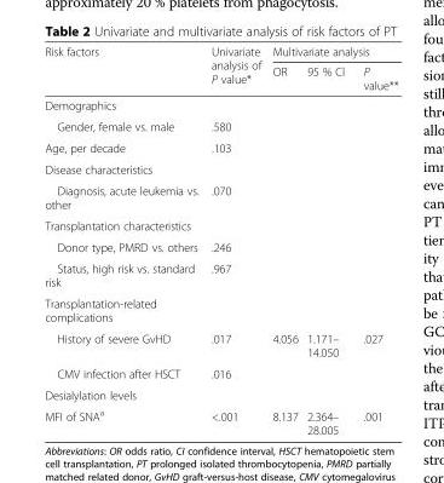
<table><thead><tr><td rowspan="2">Risk factors</td><td rowspan="2">Univariate analysis of P value*</td><td colspan="3">Multivariate analysis</td></tr><tr><td>OR</td><td>95 % Cl</td><td>P value**</td></tr></thead><tbody><tr><td colspan="5">Demographics</td></tr><tr><td>Gender, female vs. male</td><td>.580</td><td></td><td></td><td></td></tr><tr><td>Age, per decade</td><td>.103</td><td></td><td></td><td></td></tr><tr><td colspan="5">Disease characteristics</td></tr><tr><td>Diagnosis, acute leukemia vs. other</td><td>.070</td><td></td><td></td><td></td></tr><tr><td colspan="5">Transplantation characteristics</td></tr><tr><td>Donor type, PMRD vs. others</td><td>.246</td><td></td><td></td><td></td></tr><tr><td>Status, high risk vs. standard risk</td><td>.967</td><td></td><td></td><td></td></tr><tr><td colspan="5">Transplantation-related complications</td></tr><tr><td>History of severe GvHD</td><td>.017</td><td>4.056</td><td>1.171– 14.050</td><td>.027</td></tr><tr><td>CMV infection after HSCT</td><td>.016</td><td></td><td></td><td></td></tr><tr><td colspan="5">Desialylation levels</td></tr><tr><td>MFI of SNA<sup>a</sup></td><td>&lt;.001</td><td>8.137</td><td>2.364– 28.005</td><td>.001</td></tr></tbody></table>